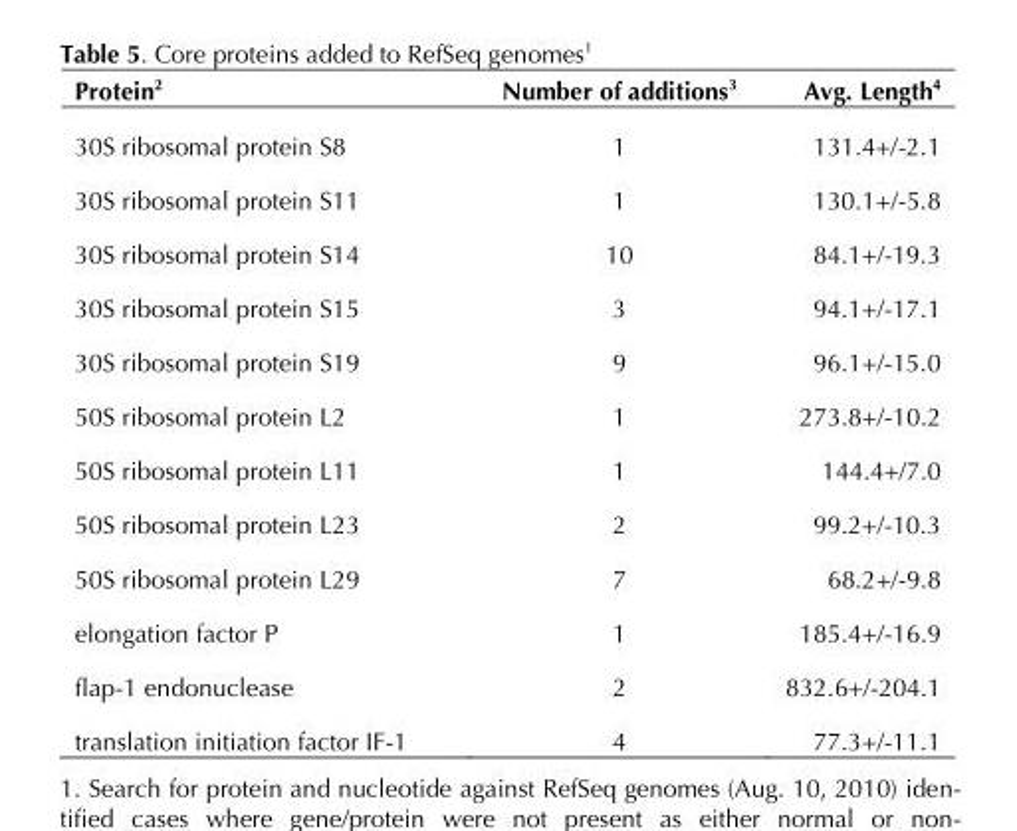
<table><thead><tr><td>Protein<sup>2</sup></td><td>Number of additions<sup>3</sup></td><td>Avg. Length<sup>4</sup></td></tr></thead><tbody><tr><td>30S ribosomal protein S8</td><td>1</td><td>131.4+/-2.1</td></tr><tr><td>30S ribosomal protein S11</td><td>1</td><td>130.1+/-5.8</td></tr><tr><td>30S ribosomal protein S14</td><td>10</td><td>84.1+/-19.3</td></tr><tr><td>30S ribosomal protein S15</td><td>3</td><td>94.1+/-17.1</td></tr><tr><td>30S ribosomal protein S19</td><td>9</td><td>96.1+/-15.0</td></tr><tr><td>50S ribosomal protein L2</td><td>1</td><td>273.8+/-10.2</td></tr><tr><td>50S ribosomal protein L11</td><td>1</td><td>144.4+/7.0</td></tr><tr><td>50S ribosomal protein L23</td><td>2</td><td>99.2+/-10.3</td></tr><tr><td>50S ribosomal protein L29</td><td>7</td><td>68.2+/-9.8</td></tr><tr><td>elongation factor P</td><td>1</td><td>185.4+/-16.9</td></tr><tr><td>flap-1 endonuclease</td><td>2</td><td>832.6+/-204.1</td></tr><tr><td>translation initiation factor IF-1</td><td>4</td><td>77.3+/-11.1</td></tr></tbody></table>